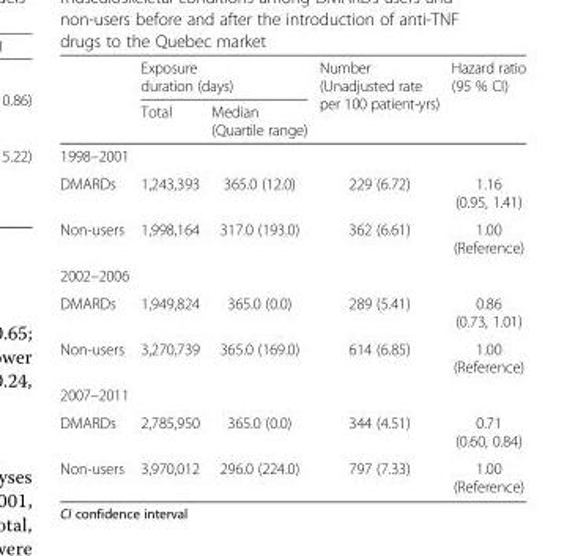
<table><thead><tr><td rowspan="2"></td><td colspan="2">Exposure duration (days)</td><td rowspan="2">Number (Unadjusted rate per 100 patient-yrs)</td><td rowspan="2">Hazard ratio (95 % CI)</td></tr><tr><td>Total</td><td>Median (Quartile range)</td></tr></thead><tbody><tr><td colspan="5">1998–2001</td></tr><tr><td>DMARDs</td><td>1,243,393</td><td>365.0 (12.0)</td><td>229 (6.72)</td><td>1.16 (0.95, 1.41)</td></tr><tr><td>Non-users</td><td>1,998,164</td><td>317.0 (193.0)</td><td>362 (6.61)</td><td>1.00 (Reference)</td></tr><tr><td colspan="5">2002–2006</td></tr><tr><td>DMARDs</td><td>1,949,824</td><td>365.0 (0.0)</td><td>289 (5.41)</td><td>0.86 (0.73, 1.01)</td></tr><tr><td>Non-users</td><td>3,270,739</td><td>365.0 (169.0)</td><td>614 (6.85)</td><td>1.00 (Reference)</td></tr><tr><td colspan="5">2007–2011</td></tr><tr><td>DMARDs</td><td>2,785,950</td><td>365.0 (0.0)</td><td>344 (4.51)</td><td>0.71 (0.60, 0.84)</td></tr><tr><td>Non-users</td><td>3,970,012</td><td>296.0 (224.0)</td><td>797 (7.33)</td><td>1.00 (Reference)</td></tr></tbody></table>